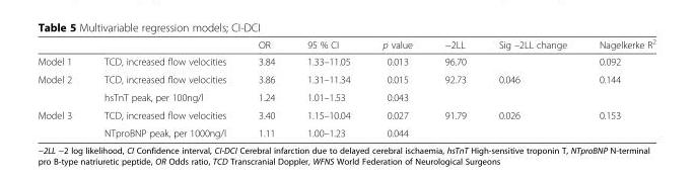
<table><thead><tr><td></td><td></td><td>OR</td><td>95 % CI</td><td>p value</td><td>−2LL</td><td>Sig –2LL change</td><td>Nagelkerke R<sup>2</sup></td></tr></thead><tbody><tr><td>Model 1</td><td>TCD, increased flow velocities</td><td>3.84</td><td>1.33–11.05</td><td>0.013</td><td>96.70</td><td></td><td>0.092</td></tr><tr><td rowspan="2">Model 2</td><td>TCD, increased flow velocities</td><td>3.86</td><td>1.31–11.34</td><td>0.015</td><td rowspan="2">92.73</td><td rowspan="2">0.046</td><td rowspan="2">0.144</td></tr><tr><td>hsTnT peak, per 100ng/l</td><td>1.24</td><td>1.01–1.53</td><td>0.043</td></tr><tr><td rowspan="2">Model 3</td><td>TCD, increased flow velocities</td><td>3.40</td><td>1.15–10.04</td><td>0.027</td><td rowspan="2">91.79</td><td rowspan="2">0.026</td><td rowspan="2">0.153</td></tr><tr><td>NTproBNP peak, per 1000ng/l</td><td>1.11</td><td>1.00–1.23</td><td>0.044</td></tr></tbody></table>